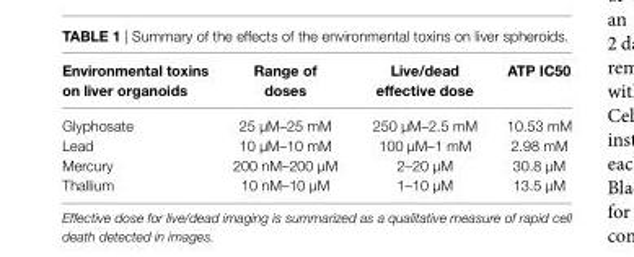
<table><thead><tr><td>environmental toxins on liver organoids</td><td>range of doses</td><td>live/dead effective dose</td><td>aTP ic50</td></tr></thead><tbody><tr><td>Glyphosate</td><td>25 µM–25 mM</td><td>250 µM–2.5 mM</td><td>10.53 mM</td></tr><tr><td>Lead</td><td>10 µM–10 mM</td><td>100 µM–1 mM</td><td>2.98 mM</td></tr><tr><td>Mercury</td><td>200 nM–200 µM</td><td>2–20 µM</td><td>30.8 µM</td></tr><tr><td>Thallium</td><td>10 nM–10 µM</td><td>1–10 µM</td><td>13.5 µM</td></tr></tbody></table>